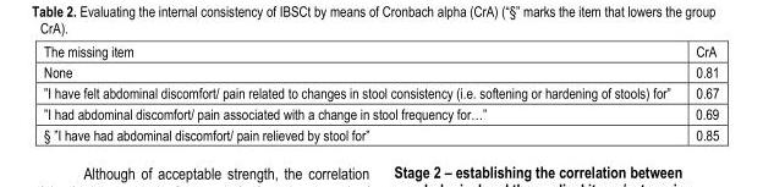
<table><thead><tr><td rowspan="5">The missing item None ”I have felt abdominal discomfort/ pain related to changes in stool consistency (i.e. softening or hardening of stools) for” ”I had abdominal discomfort/ pain associated with a change in stool frequency for…” § ”I have had abdominal discomfort/ pain relieved by stool for”</td><td rowspan="5">CrA 0.81 0.67 0.69 0.85</td></tr><tr></tr><tr></tr><tr></tr><tr></tr></thead><tbody></tbody></table>